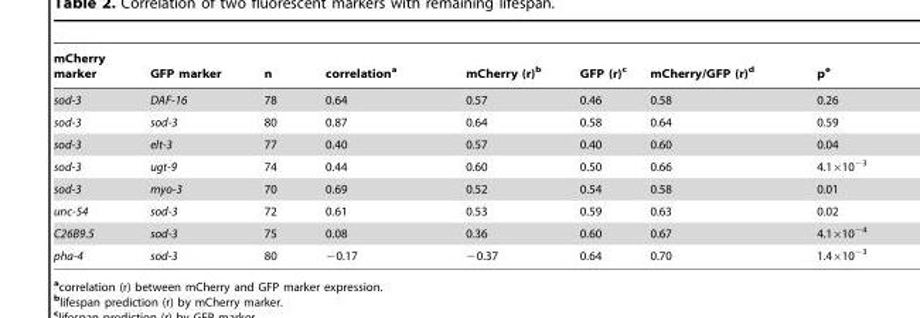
<table><thead><tr><td>mCherry marker</td><td>GFP marker</td><td>n</td><td>correlation<sup>a</sup></td><td>mCherry (r)<sup>b</sup></td><td>GFP (r)<sup>c</sup></td><td>mCherry/GFP (r)<sup>d</sup></td><td>p<sup>e</sup></td></tr></thead><tbody><tr><td>sod-3</td><td>DAF-16</td><td>78</td><td>0.64</td><td>0.57</td><td>0.46</td><td>0.58</td><td>0.26</td></tr><tr><td>sod-3</td><td>sod-3</td><td>80</td><td>0.87</td><td>0.64</td><td>0.58</td><td>0.64</td><td>0.59</td></tr><tr><td>sod-3</td><td>elt-3</td><td>77</td><td>0.40</td><td>0.57</td><td>0.40</td><td>0.60</td><td>0.04</td></tr><tr><td>sod-3</td><td>ugt-9</td><td>74</td><td>0.44</td><td>0.60</td><td>0.50</td><td>0.66</td><td>4.1×10<sup>−3</sup></td></tr><tr><td>sod-3</td><td>myo-3</td><td>70</td><td>0.69</td><td>0.52</td><td>0.54</td><td>0.58</td><td>0.01</td></tr><tr><td>unc-54</td><td>sod-3</td><td>72</td><td>0.61</td><td>0.53</td><td>0.59</td><td>0.63</td><td>0.02</td></tr><tr><td>C26B9.5</td><td>sod-3</td><td>75</td><td>0.08</td><td>0.36</td><td>0.60</td><td>0.67</td><td>4.1×10<sup>−4</sup></td></tr><tr><td>pha-4</td><td>sod-3</td><td>80</td><td>−0.17</td><td>−0.37</td><td>0.64</td><td>0.70</td><td>1.4×10<sup>−3</sup></td></tr></tbody></table>